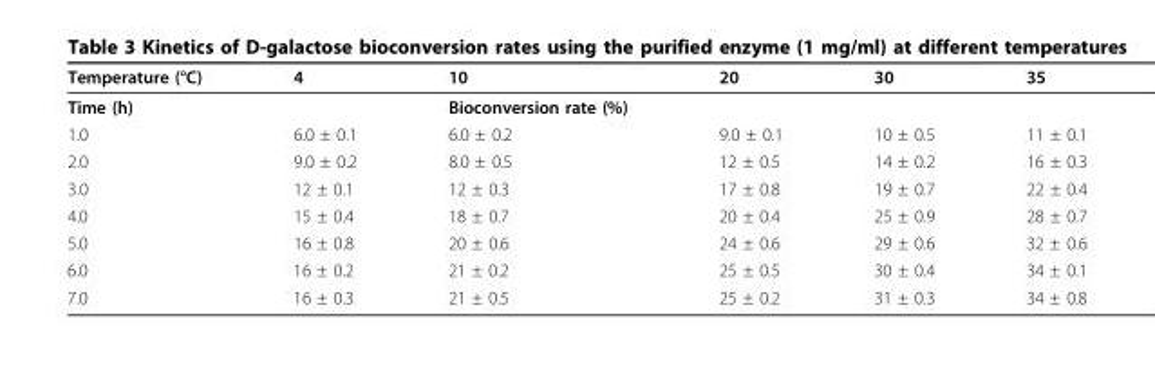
<table><thead><tr><td>Temperature (°C)</td><td>4</td><td>10</td><td>20</td><td>30</td><td>35</td></tr></thead><tbody><tr><td>Time (h)</td><td></td><td>Bioconversion rate (%)</td><td></td><td></td><td></td></tr><tr><td>1.0</td><td>6.0 ± 0.1</td><td>6.0 ± 0.2</td><td>9.0 ± 0.1</td><td>10 ± 0.5</td><td>11 ± 0.1</td></tr><tr><td>2.0</td><td>9.0 ± 0.2</td><td>8.0 ± 0.5</td><td>12 ± 0.5</td><td>14 ± 0.2</td><td>16 ± 0.3</td></tr><tr><td>3.0</td><td>12 ± 0.1</td><td>12 ± 0.3</td><td>17 ± 0.8</td><td>19 ± 0.7</td><td>22 ± 0.4</td></tr><tr><td>4.0</td><td>15 ± 0.4</td><td>18 ± 0.7</td><td>20 ± 0.4</td><td>25 ± 0.9</td><td>28 ± 0.7</td></tr><tr><td>5.0</td><td>16 ± 0.8</td><td>20 ± 0.6</td><td>24 ± 0.6</td><td>29 ± 0.6</td><td>32 ± 0.6</td></tr><tr><td>6.0</td><td>16 ± 0.2</td><td>21 ± 0.2</td><td>25 ± 0.5</td><td>30 ± 0.4</td><td>34 ± 0.1</td></tr><tr><td>7.0</td><td>16 ± 0.3</td><td>21 ± 0.5</td><td>25 ± 0.2</td><td>31 ± 0.3</td><td>34 ± 0.8</td></tr></tbody></table>